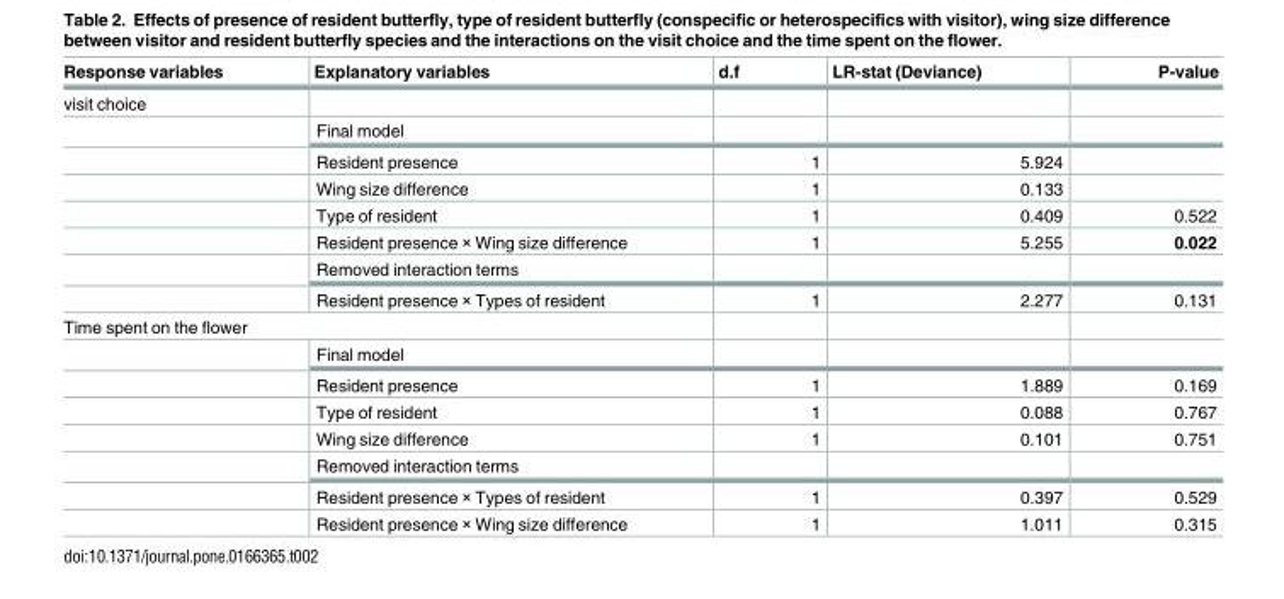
<table><thead><tr><td>Response variables</td><td>Explanatory variables</td><td>d.f</td><td>LR-stat (Deviance)</td><td>P-value</td></tr></thead><tbody><tr><td colspan="5">visit choice</td></tr><tr><td></td><td>Final model</td><td></td><td></td><td></td></tr><tr><td></td><td>Resident presence</td><td>1</td><td>5.924</td><td></td></tr><tr><td></td><td>Wing size difference</td><td>1</td><td>0.133</td><td></td></tr><tr><td></td><td>Type of resident</td><td>1</td><td>0.409</td><td>0.522</td></tr><tr><td></td><td>Resident presence × Wing size difference</td><td>1</td><td>5.255</td><td>0.022</td></tr><tr><td></td><td>Removed interaction terms</td><td></td><td></td><td></td></tr><tr><td></td><td>Resident presence × Types of resident</td><td>1</td><td>2.277</td><td>0.131</td></tr><tr><td colspan="5">Time spent on the flower</td></tr><tr><td></td><td>Final model</td><td></td><td></td><td></td></tr><tr><td></td><td>Resident presence</td><td>1</td><td>1.889</td><td>0.169</td></tr><tr><td></td><td>Type of resident</td><td>1</td><td>0.088</td><td>0.767</td></tr><tr><td></td><td>Wing size difference</td><td>1</td><td>0.101</td><td>0.751</td></tr><tr><td></td><td>Removed interaction terms</td><td></td><td></td><td></td></tr><tr><td></td><td>Resident presence × Types of resident</td><td>1</td><td>0.397</td><td>0.529</td></tr><tr><td></td><td>Resident presence × Wing size difference</td><td>1</td><td>1.011</td><td>0.315</td></tr></tbody></table>